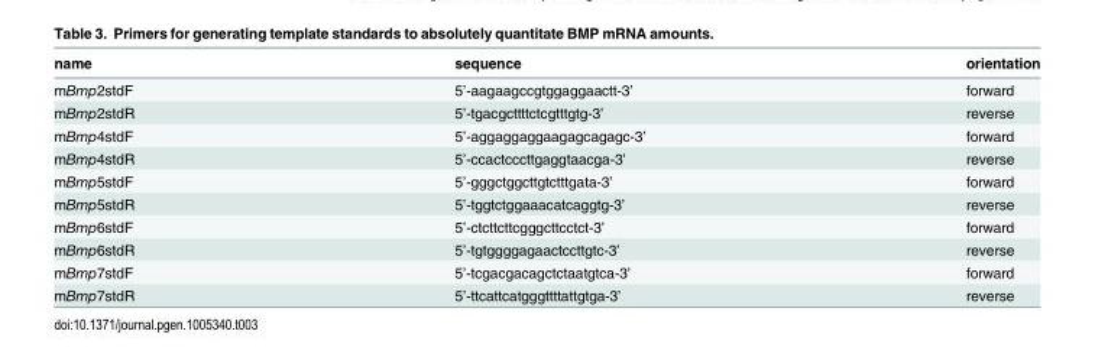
<table><thead><tr><td>name</td><td>sequence</td><td>orientation</td></tr></thead><tbody><tr><td>mBmp2stdF</td><td>5’-aagaagccgtggaggaactt-3’</td><td>forward</td></tr><tr><td>mBmp2stdR</td><td>5’-tgacgcttttctcgtttgtg-3’</td><td>reverse</td></tr><tr><td>mBmp4stdF</td><td>5’-aggaggaggaagagcagagc-3’</td><td>forward</td></tr><tr><td>mBmp4stdR</td><td>5’-ccactcccttgaggtaacga-3’</td><td>reverse</td></tr><tr><td>mBmp5stdF</td><td>5’-gggctggcttgtctttgata-3’</td><td>forward</td></tr><tr><td>mBmp5stdR</td><td>5’-tggtctggaaacatcaggtg-3’</td><td>reverse</td></tr><tr><td>mBmp6stdF</td><td>5’-ctcttcttcgggcttcctct-3’</td><td>forward</td></tr><tr><td>mBmp6stdR</td><td>5’-tgtggggagaactccttgtc-3’</td><td>reverse</td></tr><tr><td>mBmp7stdF</td><td>5’-tcgacgacagctctaatgtca-3’</td><td>forward</td></tr><tr><td>mBmp7stdR</td><td>5’-ttcattcatgggttttattgtga-3’</td><td>reverse</td></tr></tbody></table>